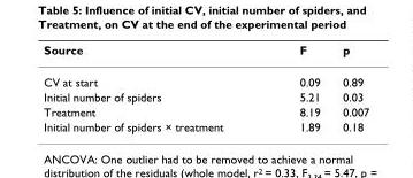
<table><thead><tr><td>Source</td><td>F</td><td>p</td></tr></thead><tbody><tr><td>CV at start</td><td>0.09</td><td>0.89</td></tr><tr><td>Initial number of spiders</td><td>5.21</td><td>0.03</td></tr><tr><td>Treatment</td><td>8.19</td><td>0.007</td></tr><tr><td>Initial number of spiders × treatment</td><td>1.89</td><td>0.18</td></tr></tbody></table>